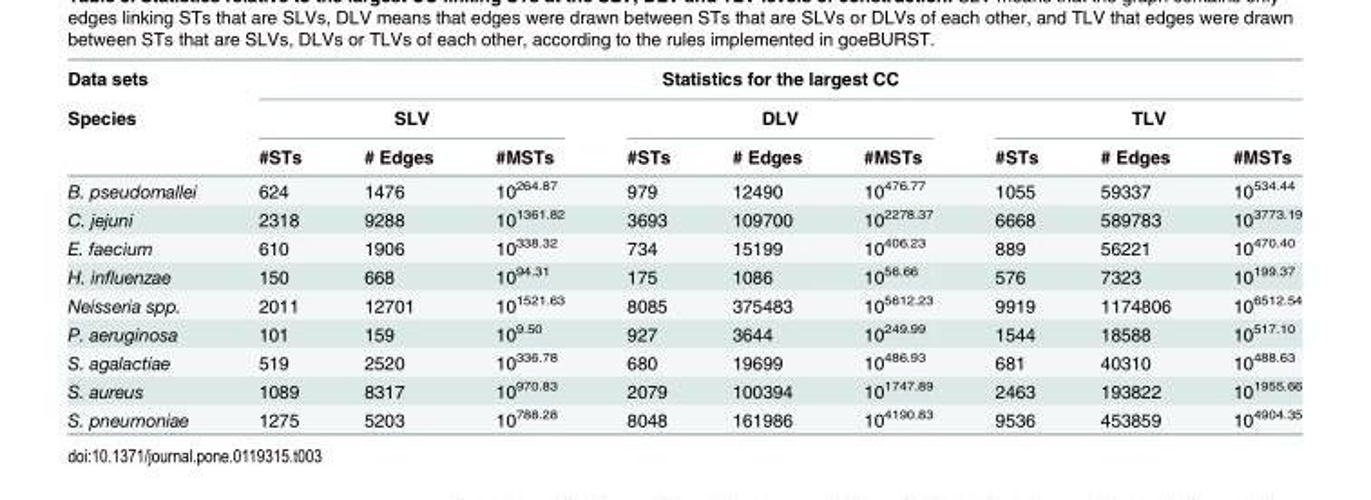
<table><thead><tr><td rowspan="3">Data sets Species</td><td colspan="9">Statistics for the largest CC</td></tr><tr><td colspan="3">SLV</td><td colspan="3">DLV</td><td colspan="3">TLV</td></tr><tr><td>#STs</td><td># Edges</td><td>#MSTs</td><td>#STs</td><td># Edges</td><td>#MSTs</td><td>#STs</td><td># Edges</td><td>#MSTs</td></tr></thead><tbody><tr><td>B. pseudomallei</td><td>624</td><td>1476</td><td>10<sup>264.87</sup></td><td>979</td><td>12490</td><td>10<sup>476.77</sup></td><td>1055</td><td>59337</td><td>10<sup>534.44</sup></td></tr><tr><td>C. jejuni</td><td>2318</td><td>9288</td><td>10<sup>1361.82</sup></td><td>3693</td><td>109700</td><td>10<sup>2278.37</sup></td><td>6668</td><td>589783</td><td>10<sup>3773.19</sup></td></tr><tr><td>E. faecium</td><td>610</td><td>1906</td><td>10<sup>338.32</sup></td><td>734</td><td>15199</td><td>10<sup>406.23</sup></td><td>889</td><td>56221</td><td>10<sup>470.40</sup></td></tr><tr><td>H. influenzae</td><td>150</td><td>668</td><td>10<sup>94.31</sup></td><td>175</td><td>1086</td><td>10<sup>56.66</sup></td><td>576</td><td>7323</td><td>10<sup>199.37</sup></td></tr><tr><td>Neisseria spp.</td><td>2011</td><td>12701</td><td>10<sup>1521.63</sup></td><td>8085</td><td>375483</td><td>10<sup>5612.23</sup></td><td>9919</td><td>1174806</td><td>10<sup>6512.54</sup></td></tr><tr><td>P. aeruginosa</td><td>101</td><td>159</td><td>10<sup>9.50</sup></td><td>927</td><td>3644</td><td>10<sup>249.99</sup></td><td>1544</td><td>18588</td><td>10<sup>517.10</sup></td></tr><tr><td>S. agalactiae</td><td>519</td><td>2520</td><td>10<sup>336.78</sup></td><td>680</td><td>19699</td><td>10<sup>486.93</sup></td><td>681</td><td>40310</td><td>10<sup>488.63</sup></td></tr><tr><td>S. aureus</td><td>1089</td><td>8317</td><td>10<sup>970.83</sup></td><td>2079</td><td>100394</td><td>10<sup>1747.89</sup></td><td>2463</td><td>193822</td><td>10<sup>1955.66</sup></td></tr><tr><td>S. pneumoniae</td><td>1275</td><td>5203</td><td>10<sup>788.28</sup></td><td>8048</td><td>161986</td><td>10<sup>4190.83</sup></td><td>9536</td><td>453859</td><td>10<sup>4904.35</sup></td></tr></tbody></table>